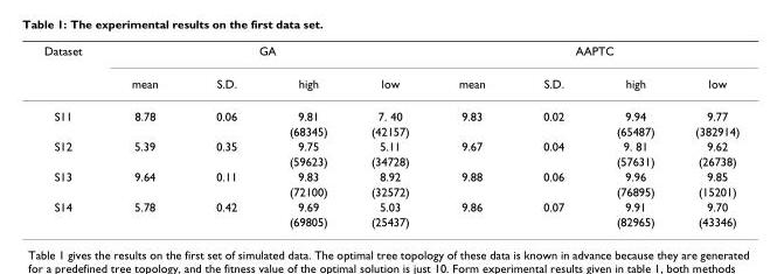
<table><thead><tr><td rowspan="2">Dataset</td><td colspan="4">GA</td><td colspan="4">AAPTC</td></tr><tr><td>mean</td><td>S.D.</td><td>high</td><td>low</td><td>mean</td><td>S.D.</td><td>high</td><td>low</td></tr></thead><tbody><tr><td rowspan="2">S11</td><td>8.78</td><td>0.06</td><td>9.81</td><td>7. 40</td><td>9.83</td><td>0.02</td><td>9.94</td><td>9.77</td></tr><tr><td></td><td></td><td>(68345)</td><td>(42157)</td><td></td><td></td><td>(65487)</td><td>(382914)</td></tr><tr><td rowspan="2">S12</td><td>5.39</td><td>0.35</td><td>9.75</td><td>5.11</td><td>9.67</td><td>0.04</td><td>9. 81</td><td>9.62</td></tr><tr><td></td><td></td><td>(59623)</td><td>(34728)</td><td></td><td></td><td>(57631)</td><td>(26738)</td></tr><tr><td rowspan="2">S13</td><td>9.64</td><td>0.11</td><td>9.83</td><td>8.92</td><td>9.88</td><td>0.06</td><td>9.96</td><td>9.85</td></tr><tr><td></td><td></td><td>(72100)</td><td>(32572)</td><td></td><td></td><td>(76895)</td><td>(15201)</td></tr><tr><td rowspan="2">S14</td><td>5.78</td><td>0.42</td><td>9.69</td><td>5.03</td><td>9.86</td><td>0.07</td><td>9.91</td><td>9.70</td></tr><tr><td></td><td></td><td>(69805)</td><td>(25437)</td><td></td><td></td><td>(82965)</td><td>(43346)</td></tr></tbody></table>